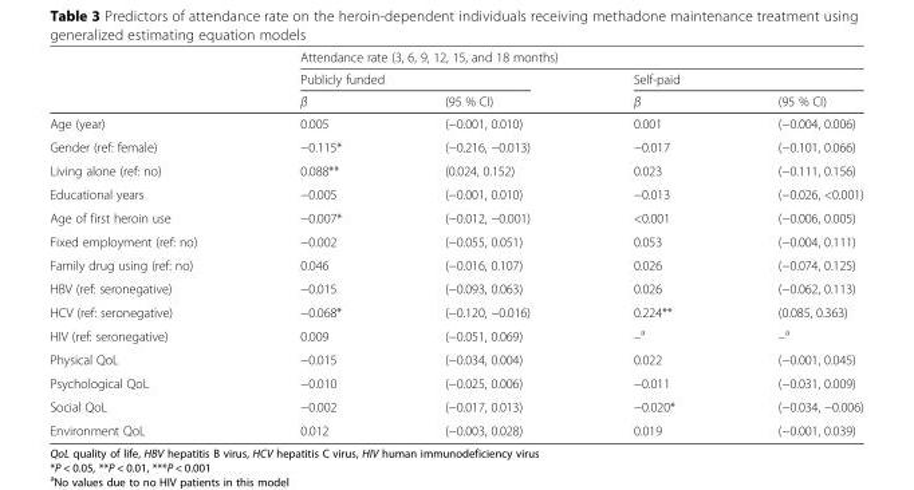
<table><thead><tr><td rowspan="3"></td><td colspan="4">Attendance rate (3, 6, 9, 12, 15, and 18 months)</td></tr><tr><td colspan="2">Publicly funded</td><td colspan="2">Self-paid</td></tr><tr><td>β</td><td>(95 % CI)</td><td>β</td><td>(95 % CI)</td></tr></thead><tbody><tr><td>Age (year)</td><td>0.005</td><td>(−0.001, 0.010)</td><td>0.001</td><td>(−0.004, 0.006)</td></tr><tr><td>Gender (ref: female)</td><td>−0.115*</td><td>(−0.216, −0.013)</td><td>−0.017</td><td>(−0.101, 0.066)</td></tr><tr><td>Living alone (ref: no)</td><td>0.088**</td><td>(0.024, 0.152)</td><td>0.023</td><td>(−0.111, 0.156)</td></tr><tr><td>Educational years</td><td>−0.005</td><td>(−0.001, 0.010)</td><td>−0.013</td><td>(−0.026, &lt;0.001)</td></tr><tr><td>Age of first heroin use</td><td>−0.007*</td><td>(−0.012, −0.001)</td><td>&lt;0.001</td><td>(−0.006, 0.005)</td></tr><tr><td>Fixed employment (ref: no)</td><td>−0.002</td><td>(−0.055, 0.051)</td><td>0.053</td><td>(−0.004, 0.111)</td></tr><tr><td>Family drug using (ref: no)</td><td>0.046</td><td>(−0.016, 0.107)</td><td>0.026</td><td>(−0.074, 0.125)</td></tr><tr><td>HBV (ref: seronegative)</td><td>−0.015</td><td>(−0.093, 0.063)</td><td>0.026</td><td>(−0.062, 0.113)</td></tr><tr><td>HCV (ref: seronegative)</td><td>−0.068*</td><td>(−0.120, −0.016)</td><td>0.224**</td><td>(0.085, 0.363)</td></tr><tr><td>HIV (ref: seronegative)</td><td>0.009</td><td>(−0.051, 0.069)</td><td>–<sup>a</sup></td><td>–<sup>a</sup></td></tr><tr><td>Physical QoL</td><td>−0.015</td><td>(−0.034, 0.004)</td><td>0.022</td><td>(−0.001, 0.045)</td></tr><tr><td>Psychological QoL</td><td>−0.010</td><td>(−0.025, 0.006)</td><td>−0.011</td><td>(−0.031, 0.009)</td></tr><tr><td>Social QoL</td><td>−0.002</td><td>(−0.017, 0.013)</td><td>−0.020*</td><td>(−0.034, −0.006)</td></tr><tr><td>Environment QoL</td><td>0.012</td><td>(−0.003, 0.028)</td><td>0.019</td><td>(−0.001, 0.039)</td></tr></tbody></table>